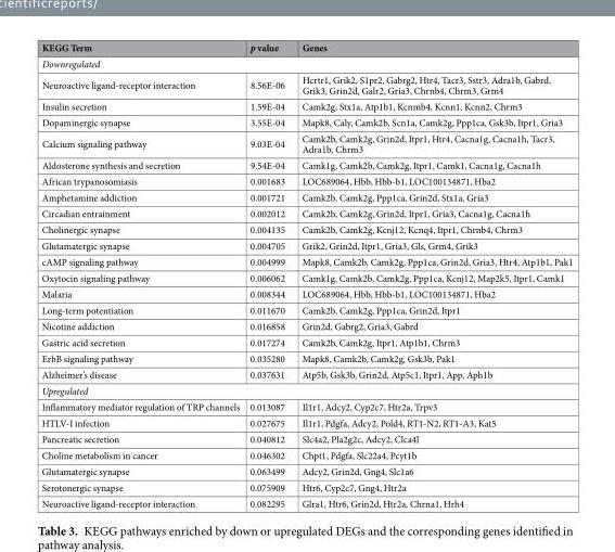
<table><thead><tr><td>KEGG Term</td><td>p value</td><td>Genes</td></tr></thead><tbody><tr><td colspan="3">Downregulated</td></tr><tr><td>Neuroactive ligand-receptor interaction</td><td>8.56E-06</td><td>Hcrtr1, Grik2, S1pr2, Gabrg2, Htr4, Tacr3, Sstr3, Adra1b, Gabrd, Grik3, Grin2d, Galr2, Gria3, Chrnb4, Chrm3, Grm4</td></tr><tr><td>Insulin secretion</td><td>1.59E-04</td><td>Camk2g, Stx1a, Atp1b1, Kcnmb4, Kcnn1, Kcnn2, Chrm3</td></tr><tr><td>Dopaminergic synapse</td><td>3.55E-04</td><td>Mapk8, Caly, Camk2b, Scn1a, Camk2g, Ppp1ca, Gsk3b, Itpr1, Gria3</td></tr><tr><td>Calcium signaling pathway</td><td>9.03E-04</td><td>Camk2b, Camk2g, Grin2d, Itpr1, Htr4, Cacna1g, Cacna1h, Tacr3, Adra1b, Chrm3</td></tr><tr><td>Aldosterone synthesis and secretion</td><td>9.54E-04</td><td>Camk1g, Camk2b, Camk2g, Itpr1, Camk1, Cacna1g, Cacna1h</td></tr><tr><td>African trypanosomiasis</td><td>0.001683</td><td>LOC689064, Hbb, Hbb-b1, LOC100134871, Hba2</td></tr><tr><td>Amphetamine addiction</td><td>0.001721</td><td>Camk2b, Camk2g, Ppp1ca, Grin2d, Stx1a, Gria3</td></tr><tr><td>Circadian entrainment</td><td>0.002012</td><td>Camk2b, Camk2g, Grin2d, Itpr1, Gria3, Cacna1g, Cacna1h</td></tr><tr><td>Cholinergic synapse</td><td>0.004135</td><td>Camk2b, Camk2g, Kcnj12, Kcnq4, Itpr1, Chrnb4, Chrm3</td></tr><tr><td>Glutamatergic synapse</td><td>0.004705</td><td>Grik2, Grin2d, Itpr1, Gria3, Gls, Grm4, Grik3</td></tr><tr><td>cAMP signaling pathway</td><td>0.004999</td><td>Mapk8, Camk2b, Camk2g, Ppp1ca, Grin2d, Gria3, Htr4, Atp1b1, Pak1</td></tr><tr><td>Oxytocin signaling pathway</td><td>0.006062</td><td>Camk1g, Camk2b, Camk2g, Ppp1ca, Kcnj12, Map2k5, Itpr1, Camk1</td></tr><tr><td>Malaria</td><td>0.008344</td><td>LOC689064, Hbb, Hbb-b1, LOC100134871, Hba2</td></tr><tr><td>Long-term potentiation</td><td>0.011670</td><td>Camk2b, Camk2g, Ppp1ca, Grin2d, Itpr1</td></tr><tr><td>Nicotine addiction</td><td>0.016858</td><td>Grin2d, Gabrg2, Gria3, Gabrd</td></tr><tr><td>Gastric acid secretion</td><td>0.017274</td><td>Camk2b, Camk2g, Itpr1, Atp1b1, Chrm3</td></tr><tr><td>ErbB signaling pathway</td><td>0.035280</td><td>Mapk8, Camk2b, Camk2g, Gsk3b, Pak1</td></tr><tr><td>Alzheimer’s disease</td><td>0.037631</td><td>Atp5b, Gsk3b, Grin2d, Atp5c1, Itpr1, App, Aph1b</td></tr><tr><td colspan="3">Upregulated</td></tr><tr><td>Inflammatory mediator regulation of TRP channels</td><td>0.013087</td><td>Il1r1, Adcy2, Cyp2c7, Htr2a, Trpv3</td></tr><tr><td>HTLV-I infection</td><td>0.027675</td><td>Il1r1, Pdgfa, Adcy2, Pold4, RT1-N2, RT1-A3, Kat5</td></tr><tr><td>Pancreatic secretion</td><td>0.040812</td><td>Slc4a2, Pla2g2c, Adcy2, Clca4l</td></tr><tr><td>Choline metabolism in cancer</td><td>0.046302</td><td>Chpt1, Pdgfa, Slc22a4, Pcyt1b</td></tr><tr><td>Glutamatergic synapse</td><td>0.063499</td><td>Adcy2, Grin2d, Gng4, Slc1a6</td></tr><tr><td>Serotonergic synapse</td><td>0.075909</td><td>Htr6, Cyp2c7, Gng4, Htr2a</td></tr><tr><td>Neuroactive ligand-receptor interaction</td><td>0.082295</td><td>Glra1, Htr6, Grin2d, Htr2a, Chrna1, Hrh4</td></tr></tbody></table>